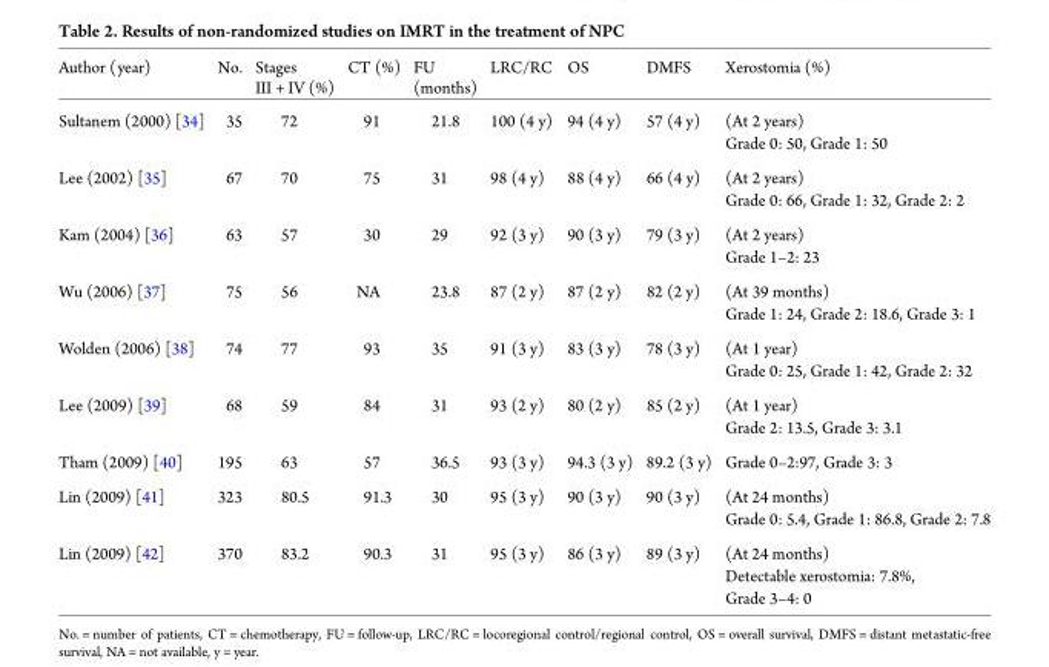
<table><thead><tr><td>Author (year)</td><td>No.</td><td>Stages III + IV (%)</td><td>CT (%)</td><td>FU (months)</td><td>LRC/RC</td><td>OS</td><td>DMFS</td><td>Xerostomia (%)</td></tr></thead><tbody><tr><td>Sultanem (2000) [34]</td><td>35</td><td>72</td><td>91</td><td>21.8</td><td>100 (4 y)</td><td>94 (4 y)</td><td>57 (4 y)</td><td>(At 2 years) Grade 0: 50, Grade 1: 50</td></tr><tr><td>Lee (2002) [35]</td><td>67</td><td>70</td><td>75</td><td>31</td><td>98 (4 y)</td><td>88 (4 y)</td><td>66 (4 y)</td><td>(At 2 years) Grade 0: 66, Grade 1: 32, Grade 2: 2</td></tr><tr><td>Kam (2004) [36]</td><td>63</td><td>57</td><td>30</td><td>29</td><td>92 (3 y)</td><td>90 (3 y)</td><td>79 (3 y)</td><td>(At 2 years) Grade 1–2: 23</td></tr><tr><td>Wu (2006) [37]</td><td>75</td><td>56</td><td>NA</td><td>23.8</td><td>87 (2 y)</td><td>87 (2 y)</td><td>82 (2 y)</td><td>(At 39 months) Grade 1: 24, Grade 2: 18.6, Grade 3: 1</td></tr><tr><td>Wolden (2006) [38]</td><td>74</td><td>77</td><td>93</td><td>35</td><td>91 (3 y)</td><td>83 (3 y)</td><td>78 (3 y)</td><td>(At 1 year) Grade 0: 25, Grade 1: 42, Grade 2: 32</td></tr><tr><td>Lee (2009) [39]</td><td>68</td><td>59</td><td>84</td><td>31</td><td>93 (2 y)</td><td>80 (2 y)</td><td>85 (2 y)</td><td>(At 1 year) Grade 2: 13.5, Grade 3: 3.1</td></tr><tr><td>Tham (2009) [40]</td><td>195</td><td>63</td><td>57</td><td>36.5</td><td>93 (3 y)</td><td>94.3 (3 y)</td><td>89.2 (3 y)</td><td>Grade 0–2:97, Grade 3: 3</td></tr><tr><td>Lin (2009) [41]</td><td>323</td><td>80.5</td><td>91.3</td><td>30</td><td>95 (3 y)</td><td>90 (3 y)</td><td>90 (3 y)</td><td>(At 24 months) Grade 0: 5.4, Grade 1: 86.8, Grade 2: 7.8</td></tr><tr><td>Lin (2009) [42]</td><td>370</td><td>83.2</td><td>90.3</td><td>31</td><td>95 (3 y)</td><td>86 (3 y)</td><td>89 (3 y)</td><td>(At 24 months) Detectable xerostomia: 7.8%, Grade 3–4: 0</td></tr></tbody></table>